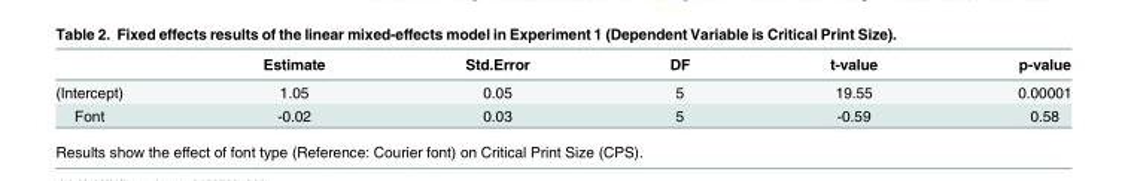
<table><thead><tr><td></td><td>Estimate</td><td>Std.Error</td><td>DF</td><td>t-value</td><td>p-value</td></tr></thead><tbody><tr><td>(Intercept)</td><td>1.05</td><td>0.05</td><td>5</td><td>19.55</td><td>0.00001</td></tr><tr><td>Font</td><td>-0.02</td><td>0.03</td><td>5</td><td>-0.59</td><td>0.58</td></tr></tbody></table>